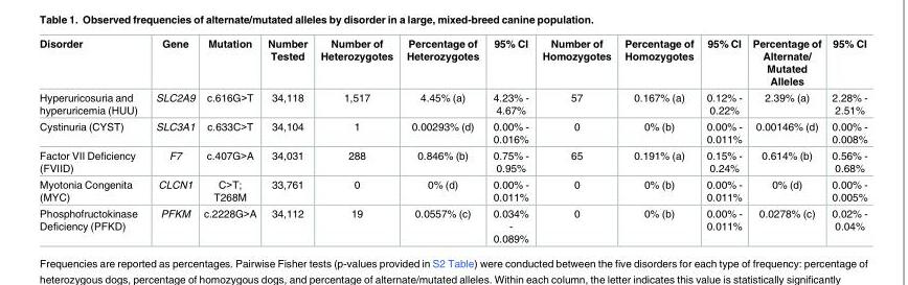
<table><thead><tr><td>Disorder</td><td>Gene</td><td>Mutation</td><td>Number Tested</td><td>Number of Heterozygotes</td><td>Percentage of Heterozygotes</td><td>95% CI</td><td>Number of Homozygotes</td><td>Percentage of Homozygotes</td><td>95% CI</td><td>Percentage of Alternate/ Mutated Alleles</td><td>95% CI</td></tr></thead><tbody><tr><td>Hyperuricosuria and hyperuricemia (HUU)</td><td>SLC2A9</td><td>c.616G&gt;T</td><td>34,118</td><td>1,517</td><td>4.45% (a)</td><td>4.23% - 4.67%</td><td>57</td><td>0.167% (a)</td><td>0.12% - 0.22%</td><td>2.39% (a)</td><td>2.28% - 2.51%</td></tr><tr><td>Cystinuria (CYST)</td><td>SLC3A1</td><td>c.633C&gt;T</td><td>34,104</td><td>1</td><td>0.00293% (d)</td><td>0.00% - 0.016%</td><td>0</td><td>0% (b)</td><td>0.00% - 0.011%</td><td>0.00146% (d)</td><td>0.00% - 0.008%</td></tr><tr><td>Factor VII Deficiency (FVIID)</td><td>F7</td><td>c.407G&gt;A</td><td>34,031</td><td>288</td><td>0.846% (b)</td><td>0.75% - 0.95%</td><td>65</td><td>0.191% (a)</td><td>0.15% - 0.24%</td><td>0.614% (b)</td><td>0.56% - 0.68%</td></tr><tr><td>Myotonia Congenita (MYC)</td><td>CLCN1</td><td>C&gt;T; T268M</td><td>33,761</td><td>0</td><td>0% (d)</td><td>0.00% - 0.011%</td><td>0</td><td>0% (b)</td><td>0.00% - 0.011%</td><td>0% (d)</td><td>0.00% - 0.005%</td></tr><tr><td>Phosphofructokinase Deficiency (PFKD)</td><td>PFKM</td><td>c.2228G&gt;A</td><td>34,112</td><td>19</td><td>0.0557% (c)</td><td>0.034% - 0.089%</td><td>0</td><td>0% (b)</td><td>0.00% - 0.011%</td><td>0.0278% (c)</td><td>0.02% - 0.04%</td></tr></tbody></table>